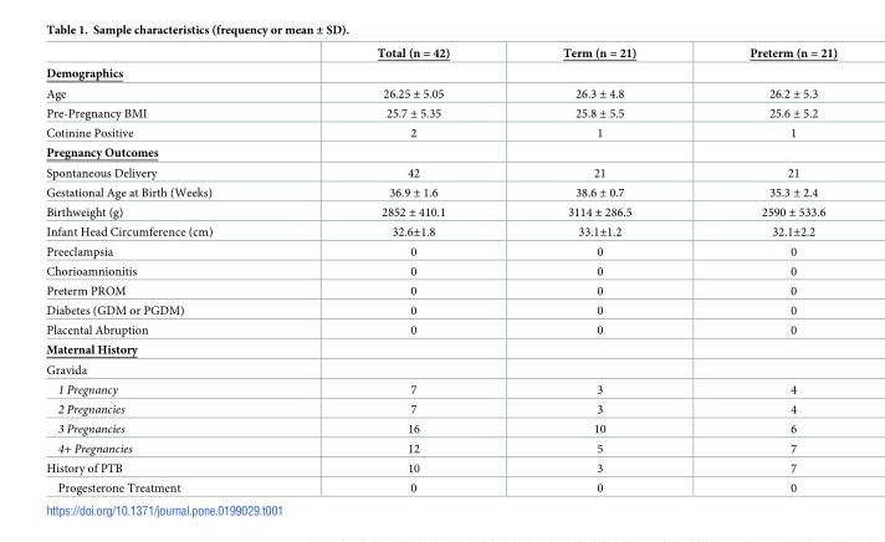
<table><thead><tr><td></td><td>Total (n = 42)</td><td>Term (n = 21)</td><td>Preterm (n = 21)</td></tr></thead><tbody><tr><td colspan="4">Demographics</td></tr><tr><td>Age</td><td>26.25 ± 5.05</td><td>26.3 ± 4.8</td><td>26.2 ± 5.3</td></tr><tr><td>Pre-Pregnancy BMI</td><td>25.7 ± 5.35</td><td>25.8 ± 5.5</td><td>25.6 ± 5.2</td></tr><tr><td>Cotinine Positive</td><td>2</td><td>1</td><td>1</td></tr><tr><td colspan="4">Pregnancy Outcomes</td></tr><tr><td>Spontaneous Delivery</td><td>42</td><td>21</td><td>21</td></tr><tr><td>Gestational Age at Birth (Weeks)</td><td>36.9 ± 1.6</td><td>38.6 ± 0.7</td><td>35.3 ± 2.4</td></tr><tr><td>Birthweight (g)</td><td>2852 ± 410.1</td><td>3114 ± 286.5</td><td>2590 ± 533.6</td></tr><tr><td>Infant Head Circumference (cm)</td><td>32.6±1.8</td><td>33.1±1.2</td><td>32.1±2.2</td></tr><tr><td>Preeclampsia</td><td>0</td><td>0</td><td>0</td></tr><tr><td>Chorioamnionitis</td><td>0</td><td>0</td><td>0</td></tr><tr><td>Preterm PROM</td><td>0</td><td>0</td><td>0</td></tr><tr><td>Diabetes (GDM or PGDM)</td><td>0</td><td>0</td><td>0</td></tr><tr><td>Placental Abruption</td><td>0</td><td>0</td><td>0</td></tr><tr><td colspan="4">Maternal History</td></tr><tr><td colspan="4">Gravida</td></tr><tr><td>1 Pregnancy</td><td>7</td><td>3</td><td>4</td></tr><tr><td>2 Pregnancies</td><td>7</td><td>3</td><td>4</td></tr><tr><td>3 Pregnancies</td><td>16</td><td>10</td><td>6</td></tr><tr><td>4+ Pregnancies</td><td>12</td><td>5</td><td>7</td></tr><tr><td>History of PTB</td><td>10</td><td>3</td><td>7</td></tr><tr><td>Progesterone Treatment</td><td>0</td><td>0</td><td>0</td></tr></tbody></table>